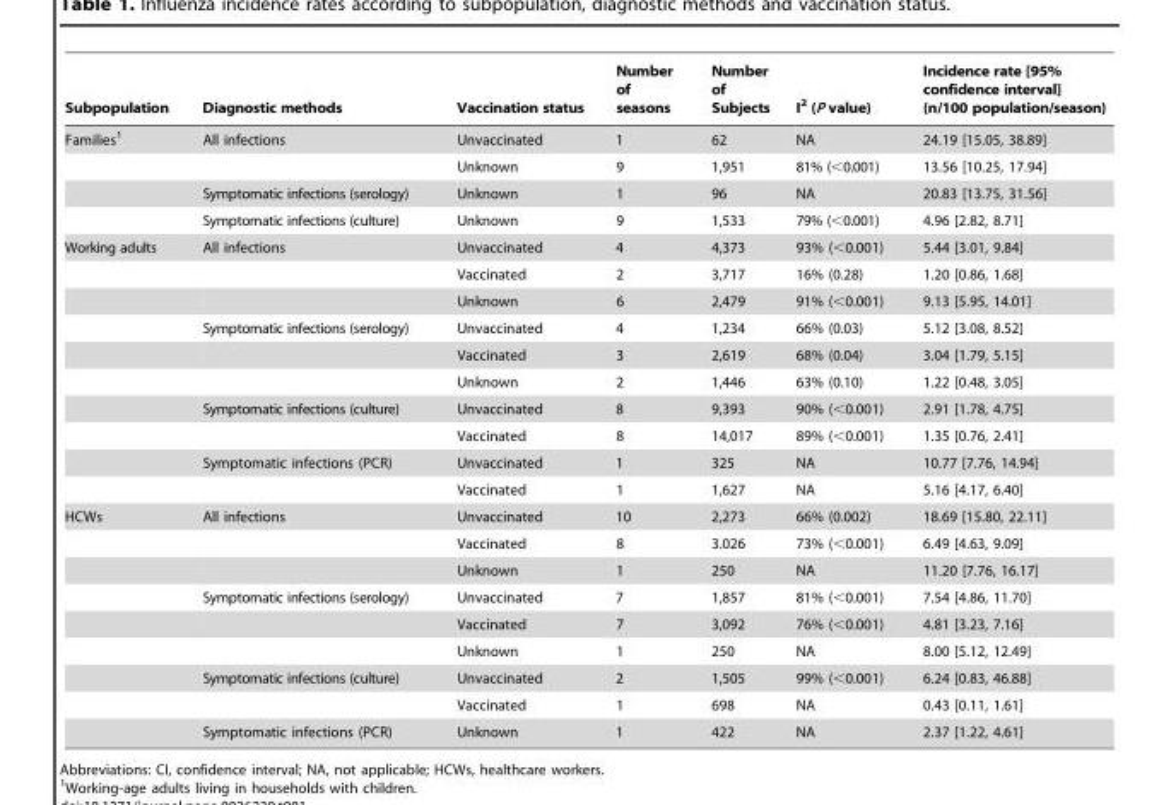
<table><thead><tr><td>Subpopulation</td><td>Diagnostic methods</td><td>Vaccination status</td><td>Number of seasons</td><td>Number of Subjects</td><td>I<sup>2</sup> (P value)</td><td>Incidence rate [95% confidence interval] (n/100 population/season)</td></tr></thead><tbody><tr><td rowspan="4">Families<sup>1</sup></td><td>All infections</td><td>Unvaccinated</td><td>1</td><td>62</td><td>NA</td><td>24.19 [15.05, 38.89]</td></tr><tr><td></td><td>Unknown</td><td>9</td><td>1,951</td><td>81% (&lt;0.001)</td><td>13.56 [10.25, 17.94]</td></tr><tr><td>Symptomatic infections (serology)</td><td>Unknown</td><td>1</td><td>96</td><td>NA</td><td>20.83 [13.75, 31.56]</td></tr><tr><td>Symptomatic infections (culture)</td><td>Unknown</td><td>9</td><td>1,533</td><td>79% (&lt;0.001)</td><td>4.96 [2.82, 8.71]</td></tr><tr><td rowspan="10">Working adults</td><td>All infections</td><td>Unvaccinated</td><td>4</td><td>4,373</td><td>93% (&lt;0.001)</td><td>5.44 [3.01, 9.84]</td></tr><tr><td></td><td>Vaccinated</td><td>2</td><td>3,717</td><td>16% (0.28)</td><td>1.20 [0.86, 1.68]</td></tr><tr><td></td><td>Unknown</td><td>6</td><td>2,479</td><td>91% (&lt;0.001)</td><td>9.13 [5.95, 14.01]</td></tr><tr><td>Symptomatic infections (serology)</td><td>Unvaccinated</td><td>4</td><td>1,234</td><td>66% (0.03)</td><td>5.12 [3.08, 8.52]</td></tr><tr><td></td><td>Vaccinated</td><td>3</td><td>2,619</td><td>68% (0.04)</td><td>3.04 [1.79, 5.15]</td></tr><tr><td></td><td>Unknown</td><td>2</td><td>1,446</td><td>63% (0.10)</td><td>1.22 [0.48, 3.05]</td></tr><tr><td>Symptomatic infections (culture)</td><td>Unvaccinated</td><td>8</td><td>9,393</td><td>90% (&lt;0.001)</td><td>2.91 [1.78, 4.75]</td></tr><tr><td></td><td>Vaccinated</td><td>8</td><td>14,017</td><td>89% (&lt;0.001)</td><td>1.35 [0.76, 2.41]</td></tr><tr><td>Symptomatic infections (PCR)</td><td>Unvaccinated</td><td>1</td><td>325</td><td>NA</td><td>10.77 [7.76, 14.94]</td></tr><tr><td></td><td>Vaccinated</td><td>1</td><td>1,627</td><td>NA</td><td>5.16 [4.17, 6.40]</td></tr><tr><td rowspan="9">HCWs</td><td>All infections</td><td>Unvaccinated</td><td>10</td><td>2,273</td><td>66% (0.002)</td><td>18.69 [15.80, 22.11]</td></tr><tr><td></td><td>Vaccinated</td><td>8</td><td>3.026</td><td>73% (&lt;0.001)</td><td>6.49 [4.63, 9.09]</td></tr><tr><td></td><td>Unknown</td><td>1</td><td>250</td><td>NA</td><td>11.20 [7.76, 16.17]</td></tr><tr><td>Symptomatic infections (serology)</td><td>Unvaccinated</td><td>7</td><td>1,857</td><td>81% (&lt;0.001)</td><td>7.54 [4.86, 11.70]</td></tr><tr><td></td><td>Vaccinated</td><td>7</td><td>3,092</td><td>76% (&lt;0.001)</td><td>4.81 [3.23, 7.16]</td></tr><tr><td></td><td>Unknown</td><td>1</td><td>250</td><td>NA</td><td>8.00 [5.12, 12.49]</td></tr><tr><td>Symptomatic infections (culture)</td><td>Unvaccinated</td><td>2</td><td>1,505</td><td>99% (&lt;0.001)</td><td>6.24 [0.83, 46.88]</td></tr><tr><td></td><td>Vaccinated</td><td>1</td><td>698</td><td>NA</td><td>0.43 [0.11, 1.61]</td></tr><tr><td>Symptomatic infections (PCR)</td><td>Unknown</td><td>1</td><td>422</td><td>NA</td><td>2.37 [1.22, 4.61]</td></tr></tbody></table>